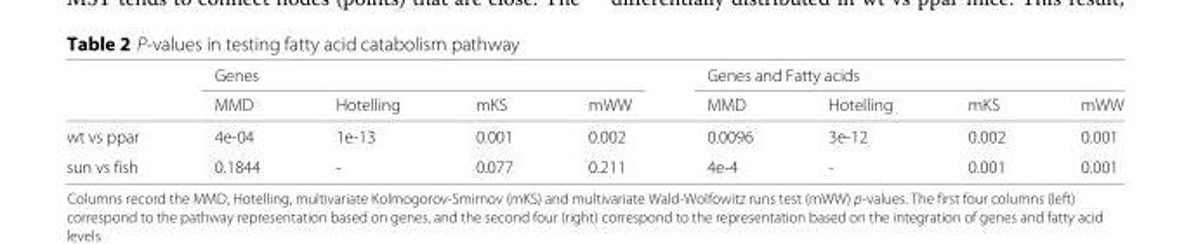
<table><thead><tr><td rowspan="2"></td><td colspan="4">Genes</td><td colspan="4">Genes and Fatty acids</td></tr><tr><td>MMD</td><td>Hotelling</td><td>mKS</td><td>mWW</td><td>MMD</td><td>Hotelling</td><td>mKS</td><td>mWW</td></tr></thead><tbody><tr><td>wt vs ppar</td><td>4e-04</td><td>1e-13</td><td>0.001</td><td>0.002</td><td>0.0096</td><td>3e-12</td><td>0.002</td><td>0.001</td></tr><tr><td>sun vs fish</td><td>0.1844</td><td>-</td><td>0.077</td><td>0.211</td><td>4e-4</td><td>-</td><td>0.001</td><td>0.001</td></tr></tbody></table>